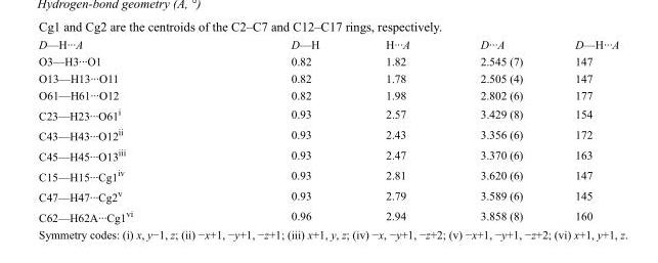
<table><tbody><tr><td>D—H···A</td><td>D—H</td><td>H···A</td><td>D···A</td><td>D—H···A</td></tr><tr><td>O3—H3···O1</td><td>0.82</td><td>1.82</td><td>2.545 (7)</td><td>147</td></tr><tr><td>O13—H13···O11</td><td>0.82</td><td>1.78</td><td>2.505 (4)</td><td>147</td></tr><tr><td>O61—H61···O12</td><td>0.82</td><td>1.98</td><td>2.802 (6)</td><td>177</td></tr><tr><td>C23—H23···O61<sup>i</sup></td><td>0.93</td><td>2.57</td><td>3.429 (8)</td><td>154</td></tr><tr><td>C43—H43···O12<sup>ii</sup></td><td>0.93</td><td>2.43</td><td>3.356 (6)</td><td>172</td></tr><tr><td>C45—H45···O13<sup>iii</sup></td><td>0.93</td><td>2.47</td><td>3.370 (6)</td><td>163</td></tr><tr><td>C15—H15···Cg1<sup>iv</sup></td><td>0.93</td><td>2.81</td><td>3.620 (6)</td><td>147</td></tr><tr><td>C47—H47···Cg2<sup>v</sup></td><td>0.93</td><td>2.79</td><td>3.589 (6)</td><td>145</td></tr><tr><td>C62—H62A···Cg1<sup>vi</sup></td><td>0.96</td><td>2.94</td><td>3.858 (8)</td><td>160</td></tr></tbody></table>